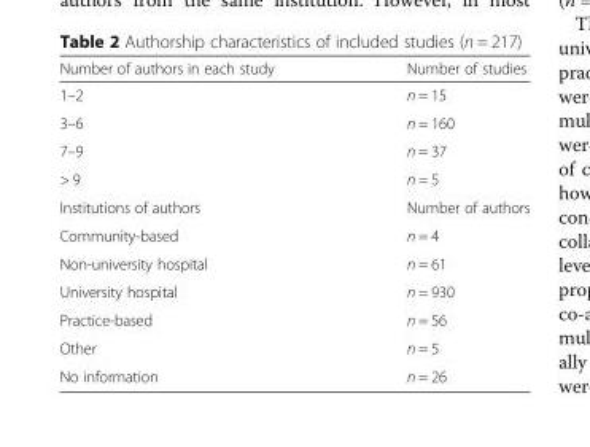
<table><thead><tr><td>Number of authors in each study</td><td>Number of studies</td></tr></thead><tbody><tr><td>1–2</td><td>n = 15</td></tr><tr><td>3–6</td><td>n = 160</td></tr><tr><td>7–9</td><td>n = 37</td></tr><tr><td>&gt; 9</td><td>n = 5</td></tr><tr><td>Institutions of authors</td><td>Number of authors</td></tr><tr><td>Community-based</td><td>n = 4</td></tr><tr><td>Non-university hospital</td><td>n = 61</td></tr><tr><td>University hospital</td><td>n = 930</td></tr><tr><td>Practice-based</td><td>n = 56</td></tr><tr><td>Other</td><td>n = 5</td></tr><tr><td>No information</td><td>n = 26</td></tr></tbody></table>